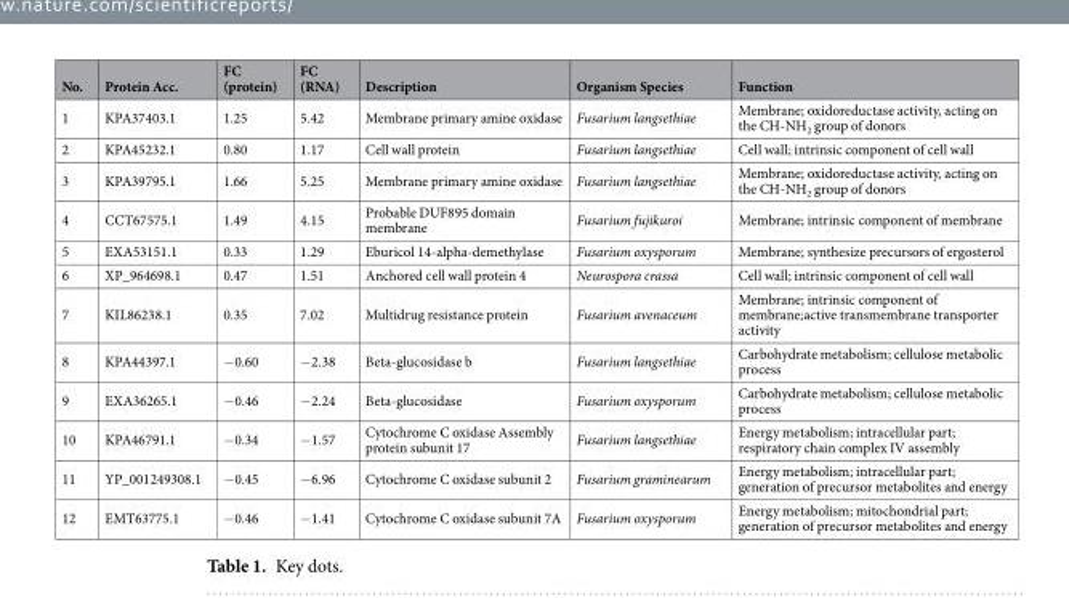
<table><thead><tr><td>No.</td><td>Protein Acc.</td><td>FC (protein)</td><td>FC (RNA)</td><td>Description</td><td>Organism Species</td><td>Function</td></tr></thead><tbody><tr><td>1</td><td>KPA37403.1</td><td>1.25</td><td>5.42</td><td>Membrane primary amine oxidase</td><td>Fusarium langsethiae</td><td>Membrane; oxidoreductase activity, acting on the CH-NH<sub>2</sub> group of donors</td></tr><tr><td>2</td><td>KPA45232.1</td><td>0.80</td><td>1.17</td><td>Cell wall protein</td><td>Fusarium langsethiae</td><td>Cell wall; intrinsic component of cell wall</td></tr><tr><td>3</td><td>KPA39795.1</td><td>1.66</td><td>5.25</td><td>Membrane primary amine oxidase</td><td>Fusarium langsethiae</td><td>Membrane; oxidoreductase activity, acting on the CH-NH<sub>2</sub> group of donors</td></tr><tr><td>4</td><td>CCT67575.1</td><td>1.49</td><td>4.15</td><td>Probable DUF895 domain membrane</td><td>Fusarium fujikuroi</td><td>Membrane; intrinsic component of membrane</td></tr><tr><td>5</td><td>EXA53151.1</td><td>0.33</td><td>1.29</td><td>Eburicol 14-alpha-demethylase</td><td>Fusarium oxysporum</td><td>Membrane; synthesize precursors of ergosterol</td></tr><tr><td>6</td><td>XP_964698.1</td><td>0.47</td><td>1.51</td><td>Anchored cell wall protein 4</td><td>Neurospora crassa</td><td>Cell wall; intrinsic component of cell wall</td></tr><tr><td>7</td><td>KIL86238.1</td><td>0.35</td><td>7.02</td><td>Multidrug resistance protein</td><td>Fusarium avenaceum</td><td>Membrane; intrinsic component of membrane;active transmembrane transporter activity</td></tr><tr><td>8</td><td>KPA44397.1</td><td>−0.60</td><td>−2.38</td><td>Beta-glucosidase b</td><td>Fusarium langsethiae</td><td>Carbohydrate metabolism; cellulose metabolic process</td></tr><tr><td>9</td><td>EXA36265.1</td><td>−0.46</td><td>−2.24</td><td>Beta-glucosidase</td><td>Fusarium oxysporum</td><td>Carbohydrate metabolism; cellulose metabolic process</td></tr><tr><td>10</td><td>KPA46791.1</td><td>−0.34</td><td>−1.57</td><td>Cytochrome C oxidase Assembly protein subunit 17</td><td>Fusarium langsethiae</td><td>Energy metabolism; intracellular part; respiratory chain complex IV assembly</td></tr><tr><td>11</td><td>YP_001249308.1</td><td>−0.45</td><td>−6.96</td><td>Cytochrome C oxidase subunit 2</td><td>Fusarium graminearum</td><td>Energy metabolism; intracellular part; generation of precursor metabolites and energy</td></tr><tr><td>12</td><td>EMT63775.1</td><td>−0.46</td><td>−1.41</td><td>Cytochrome C oxidase subunit 7A</td><td>Fusarium oxysporum</td><td>Energy metabolism; mitochondrial part; generation of precursor metabolites and energy</td></tr></tbody></table>